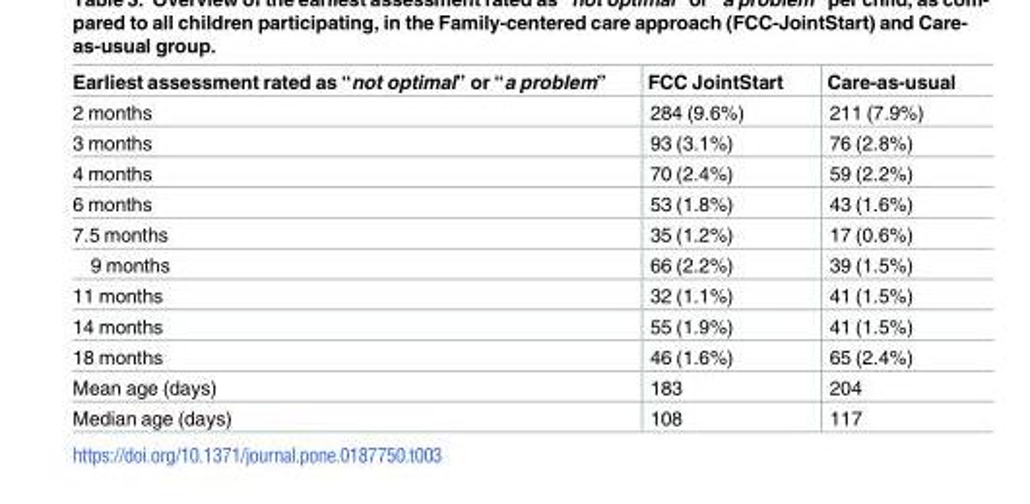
<table><thead><tr><td>Earliest assessment rated as “not optimal” or “a problem”</td><td>FCC JointStart</td><td>Care-as-usual</td></tr></thead><tbody><tr><td>2 months</td><td>284 (9.6%)</td><td>211 (7.9%)</td></tr><tr><td>3 months</td><td>93 (3.1%)</td><td>76 (2.8%)</td></tr><tr><td>4 months</td><td>70 (2.4%)</td><td>59 (2.2%)</td></tr><tr><td>6 months</td><td>53 (1.8%)</td><td>43 (1.6%)</td></tr><tr><td>7.5 months</td><td>35 (1.2%)</td><td>17 (0.6%)</td></tr><tr><td>9 months</td><td>66 (2.2%)</td><td>39 (1.5%)</td></tr><tr><td>11 months</td><td>32 (1.1%)</td><td>41 (1.5%)</td></tr><tr><td>14 months</td><td>55 (1.9%)</td><td>41 (1.5%)</td></tr><tr><td>18 months</td><td>46 (1.6%)</td><td>65 (2.4%)</td></tr><tr><td>Mean age (days)</td><td>183</td><td>204</td></tr><tr><td>Median age (days)</td><td>108</td><td>117</td></tr></tbody></table>